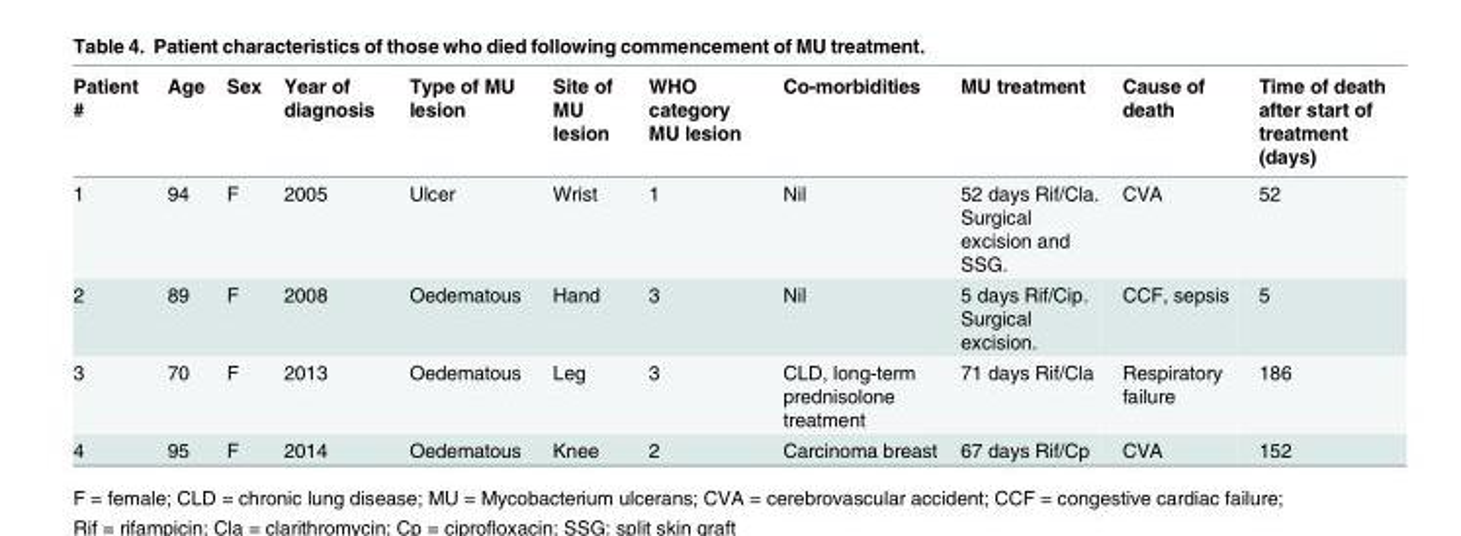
<table><thead><tr><td>Patient #</td><td>Age</td><td>Sex</td><td>Year of diagnosis</td><td>Type of MU lesion</td><td>Site of MU lesion</td><td>WHO category MU lesion</td><td>Co-morbidities</td><td>MU treatment</td><td>Cause of death</td><td>Time of death after start of treatment (days)</td></tr></thead><tbody><tr><td>1</td><td>94</td><td>F</td><td>2005</td><td>Ulcer</td><td>Wrist</td><td>1</td><td>Nil</td><td>52 days Rif/Cla. Surgical excision and SSG.</td><td>CVA</td><td>52</td></tr><tr><td>2</td><td>89</td><td>F</td><td>2008</td><td>Oedematous</td><td>Hand</td><td>3</td><td>Nil</td><td>5 days Rif/Cip. Surgical excision.</td><td>CCF, sepsis</td><td>5</td></tr><tr><td>3</td><td>70</td><td>F</td><td>2013</td><td>Oedematous</td><td>Leg</td><td>3</td><td>CLD, long-term prednisolone treatment</td><td>71 days Rif/Cla</td><td>Respiratory failure</td><td>186</td></tr><tr><td>4</td><td>95</td><td>F</td><td>2014</td><td>Oedematous</td><td>Knee</td><td>2</td><td>Carcinoma breast</td><td>67 days Rif/Cp</td><td>CVA</td><td>152</td></tr></tbody></table>